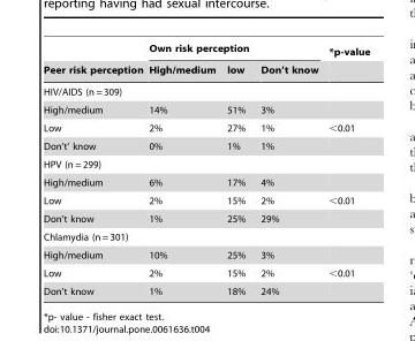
<table><thead><tr><td rowspan="2">Peer risk perception</td><td colspan="3">Own risk perception</td><td rowspan="2">*p-value</td></tr><tr><td>High/medium</td><td>low</td><td>Don’t know</td></tr></thead><tbody><tr><td colspan="5">HIV/AIDS (n = 309)</td></tr><tr><td>High/medium</td><td>14%</td><td>51%</td><td>3%</td><td></td></tr><tr><td>Low</td><td>2%</td><td>27%</td><td>1%</td><td>&lt;0.01</td></tr><tr><td>Don’t’ know</td><td>0%</td><td>1%</td><td>1%</td><td></td></tr><tr><td colspan="5">HPV (n = 299)</td></tr><tr><td>High/medium</td><td>6%</td><td>17%</td><td>4%</td><td></td></tr><tr><td>Low</td><td>2%</td><td>15%</td><td>2%</td><td>&lt;0.01</td></tr><tr><td>Don’t know</td><td>1%</td><td>25%</td><td>29%</td><td></td></tr><tr><td colspan="5">Chlamydia (n = 301)</td></tr><tr><td>High/medium</td><td>10%</td><td>25%</td><td>3%</td><td></td></tr><tr><td>Low</td><td>2%</td><td>15%</td><td>2%</td><td>&lt;0.01</td></tr><tr><td>Don’t know</td><td>1%</td><td>18%</td><td>24%</td><td></td></tr></tbody></table>